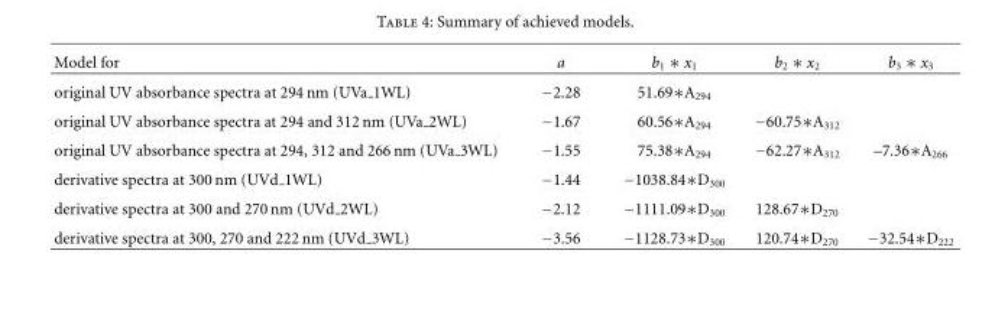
<table><thead><tr><td>Model for</td><td>a</td><td>b<sub>1</sub> ∗ x<sub>1</sub></td><td>b<sub>2</sub> ∗ x<sub>2</sub></td><td>b<sub>3</sub> ∗ x<sub>3</sub></td></tr></thead><tbody><tr><td>original UV absorbance spectra at 294 nm (UVa 1WL)</td><td>−2.28</td><td>51.69∗A<sub>294</sub></td><td></td><td></td></tr><tr><td>original UV absorbance spectra at 294 and 312 nm (UVa 2WL)</td><td>−1.67</td><td>60.56∗A<sub>294</sub></td><td>−60.75∗A<sub>312</sub></td><td></td></tr><tr><td>original UV absorbance spectra at 294, 312 and 266 nm (UVa 3WL)</td><td>−1.55</td><td>75.38∗A<sub>294</sub></td><td>−62.27∗A<sub>312</sub></td><td>–7.36∗A<sub>266</sub></td></tr><tr><td>derivative spectra at 300 nm (UVd 1WL)</td><td>−1.44</td><td>−1038.84∗D<sub>300</sub></td><td></td><td></td></tr><tr><td>derivative spectra at 300 and 270 nm (UVd 2WL)</td><td>−2.12</td><td>−1111.09∗D<sub>300</sub></td><td>128.67∗D<sub>270</sub></td><td></td></tr><tr><td>derivative spectra at 300, 270 and 222 nm (UVd 3WL)</td><td>−3.56</td><td>−1128.73∗D<sub>300</sub></td><td>120.74∗D<sub>270</sub></td><td>−32.54∗D<sub>222</sub></td></tr></tbody></table>